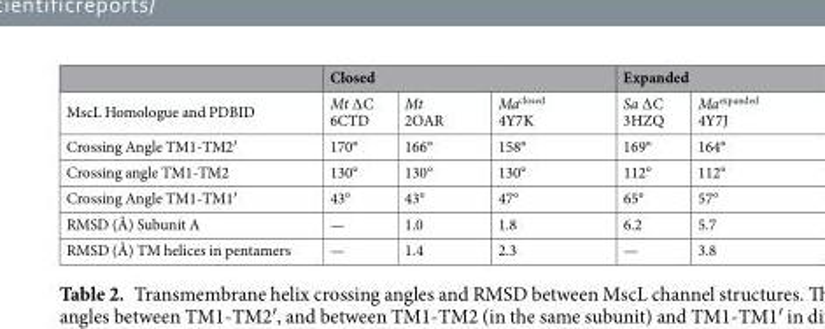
<table><thead><tr><td rowspan="2">MscL Homologue and PDBID</td><td colspan="3">Closed</td><td colspan="2">Expanded</td></tr><tr><td>Mt ∆C 6CTD</td><td>Mt 2OAR</td><td>Ma<sup>closed</sup> 4Y7K</td><td>Sa ∆C 3HZQ</td><td>Ma<sup>expanded</sup> 4Y7J</td></tr></thead><tbody><tr><td>Crossing Angle TM1-TM2′</td><td>170°</td><td>166°</td><td>158°</td><td>169°</td><td>164°</td></tr><tr><td>Crossing angle TM1-TM2</td><td>130°</td><td>130°</td><td>130°</td><td>112°</td><td>112°</td></tr><tr><td>Crossing Angle TM1-TM1′</td><td>43°</td><td>43°</td><td>47°</td><td>65°</td><td>57°</td></tr><tr><td>RMSD (Å) Subunit A</td><td>—</td><td>1.0</td><td>1.8</td><td>6.2</td><td>5.7</td></tr><tr><td>RMSD (Å) TM helices in pentamers</td><td>—</td><td>1.4</td><td>2.3</td><td>—</td><td>3.8</td></tr></tbody></table>